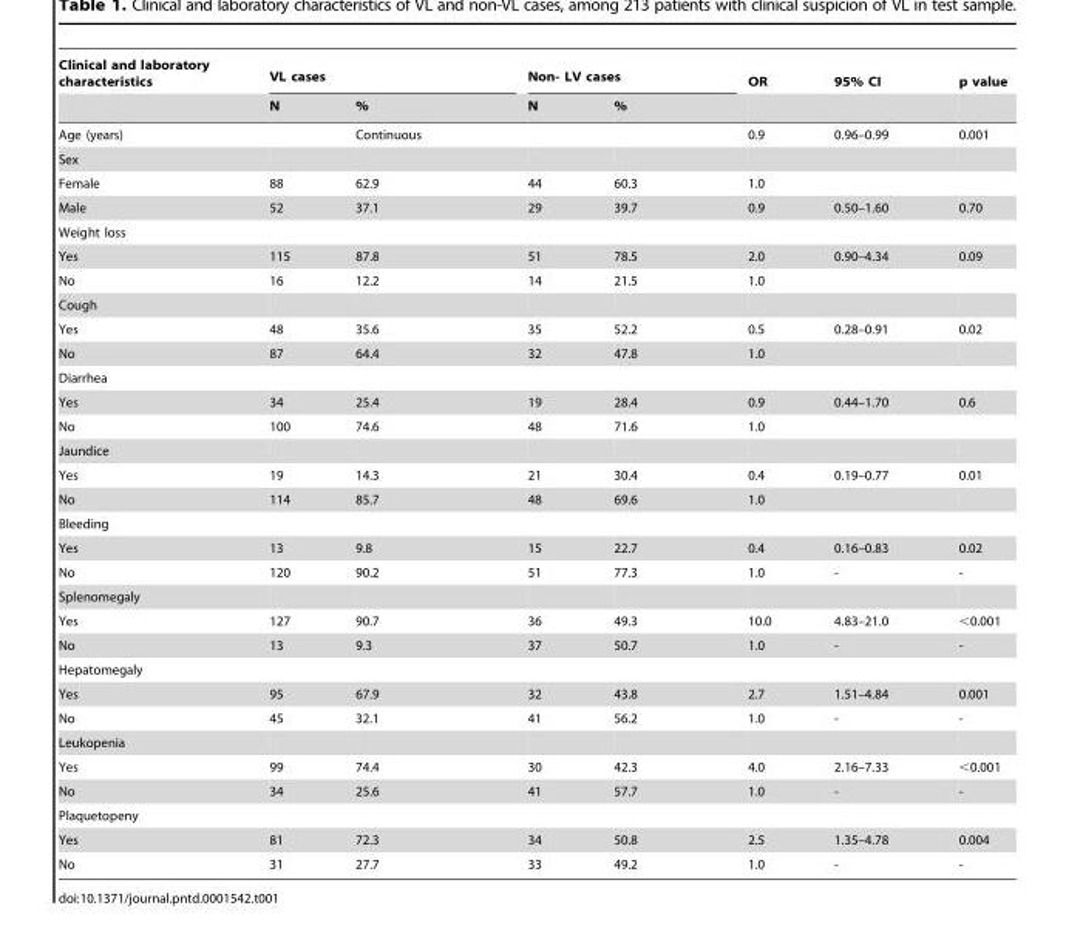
<table><thead><tr><td rowspan="2">Clinical and laboratory characteristics</td><td colspan="2">VL cases</td><td colspan="2">Non- LV cases</td><td rowspan="2">OR</td><td rowspan="2">95% CI</td><td rowspan="2">p value</td></tr><tr><td>N</td><td>%</td><td>N</td><td>%</td></tr></thead><tbody><tr><td>Age (years)</td><td></td><td>Continuous</td><td></td><td></td><td>0.9</td><td>0.96–0.99</td><td>0.001</td></tr><tr><td colspan="8">Sex</td></tr><tr><td>Female</td><td>88</td><td>62.9</td><td>44</td><td>60.3</td><td>1.0</td><td></td><td></td></tr><tr><td>Male</td><td>52</td><td>37.1</td><td>29</td><td>39.7</td><td>0.9</td><td>0.50–1.60</td><td>0.70</td></tr><tr><td colspan="8">Weight loss</td></tr><tr><td>Yes</td><td>115</td><td>87.8</td><td>51</td><td>78.5</td><td>2.0</td><td>0.90–4.34</td><td>0.09</td></tr><tr><td>No</td><td>16</td><td>12.2</td><td>14</td><td>21.5</td><td>1.0</td><td></td><td></td></tr><tr><td colspan="8">Cough</td></tr><tr><td>Yes</td><td>48</td><td>35.6</td><td>35</td><td>52.2</td><td>0.5</td><td>0.28–0.91</td><td>0.02</td></tr><tr><td>No</td><td>87</td><td>64.4</td><td>32</td><td>47.8</td><td>1.0</td><td></td><td></td></tr><tr><td colspan="8">Diarrhea</td></tr><tr><td>Yes</td><td>34</td><td>25.4</td><td>19</td><td>28.4</td><td>0.9</td><td>0.44–1.70</td><td>0.6</td></tr><tr><td>No</td><td>100</td><td>74.6</td><td>48</td><td>71.6</td><td>1.0</td><td></td><td></td></tr><tr><td colspan="8">Jaundice</td></tr><tr><td>Yes</td><td>19</td><td>14.3</td><td>21</td><td>30.4</td><td>0.4</td><td>0.19–0.77</td><td>0.01</td></tr><tr><td>No</td><td>114</td><td>85.7</td><td>48</td><td>69.6</td><td>1.0</td><td></td><td></td></tr><tr><td colspan="8">Bleeding</td></tr><tr><td>Yes</td><td>13</td><td>9.8</td><td>15</td><td>22.7</td><td>0.4</td><td>0.16–0.83</td><td>0.02</td></tr><tr><td>No</td><td>120</td><td>90.2</td><td>51</td><td>77.3</td><td>1.0</td><td>-</td><td>-</td></tr><tr><td colspan="8">Splenomegaly</td></tr><tr><td>Yes</td><td>127</td><td>90.7</td><td>36</td><td>49.3</td><td>10.0</td><td>4.83–21.0</td><td>&lt;0.001</td></tr><tr><td>No</td><td>13</td><td>9.3</td><td>37</td><td>50.7</td><td>1.0</td><td>-</td><td>-</td></tr><tr><td colspan="8">Hepatomegaly</td></tr><tr><td>Yes</td><td>95</td><td>67.9</td><td>32</td><td>43.8</td><td>2.7</td><td>1.51–4.84</td><td>0.001</td></tr><tr><td>No</td><td>45</td><td>32.1</td><td>41</td><td>56.2</td><td>1.0</td><td>-</td><td>-</td></tr><tr><td colspan="8">Leukopenia</td></tr><tr><td>Yes</td><td>99</td><td>74.4</td><td>30</td><td>42.3</td><td>4.0</td><td>2.16–7.33</td><td>&lt;0.001</td></tr><tr><td>No</td><td>34</td><td>25.6</td><td>41</td><td>57.7</td><td>1.0</td><td>-</td><td>-</td></tr><tr><td colspan="8">Plaquetopeny</td></tr><tr><td>Yes</td><td>81</td><td>72.3</td><td>34</td><td>50.8</td><td>2.5</td><td>1.35–4.78</td><td>0.004</td></tr><tr><td>No</td><td>31</td><td>27.7</td><td>33</td><td>49.2</td><td>1.0</td><td>-</td><td>-</td></tr></tbody></table>